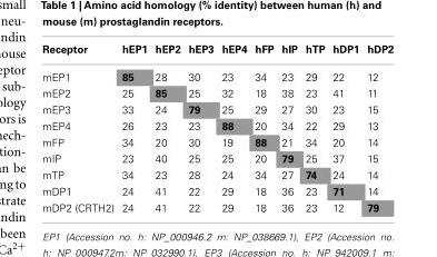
<table><thead><tr><td>Receptor</td><td>hEP1</td><td>hEP2</td><td>hEP3</td><td>hEP4</td><td>hFP</td><td>hIP</td><td>hTP</td><td>hDP1</td><td>hDP2</td></tr></thead><tbody><tr><td>mEP1</td><td>85</td><td>28</td><td>30</td><td>23</td><td>34</td><td>23</td><td>29</td><td>22</td><td>12</td></tr><tr><td>mEP2</td><td>25</td><td>85</td><td>25</td><td>32</td><td>18</td><td>38</td><td>23</td><td>41</td><td>11</td></tr><tr><td>mEP3</td><td>33</td><td>24</td><td>79</td><td>25</td><td>29</td><td>27</td><td>30</td><td>23</td><td>15</td></tr><tr><td>mEP4</td><td>26</td><td>23</td><td>23</td><td>88</td><td>20</td><td>34</td><td>22</td><td>29</td><td>13</td></tr><tr><td>mFP</td><td>34</td><td>20</td><td>30</td><td>19</td><td>88</td><td>21</td><td>34</td><td>20</td><td>14</td></tr><tr><td>mIP</td><td>23</td><td>40</td><td>25</td><td>25</td><td>20</td><td>79</td><td>25</td><td>37</td><td>15</td></tr><tr><td>mTP</td><td>34</td><td>23</td><td>28</td><td>24</td><td>34</td><td>27</td><td>74</td><td>24</td><td>14</td></tr><tr><td>mDP1</td><td>24</td><td>41</td><td>22</td><td>29</td><td>18</td><td>36</td><td>23</td><td>71</td><td>14</td></tr><tr><td>mDP2 (CRTH2)</td><td>24</td><td>41</td><td>22</td><td>29</td><td>18</td><td>36</td><td>23</td><td>12</td><td>79</td></tr></tbody></table>